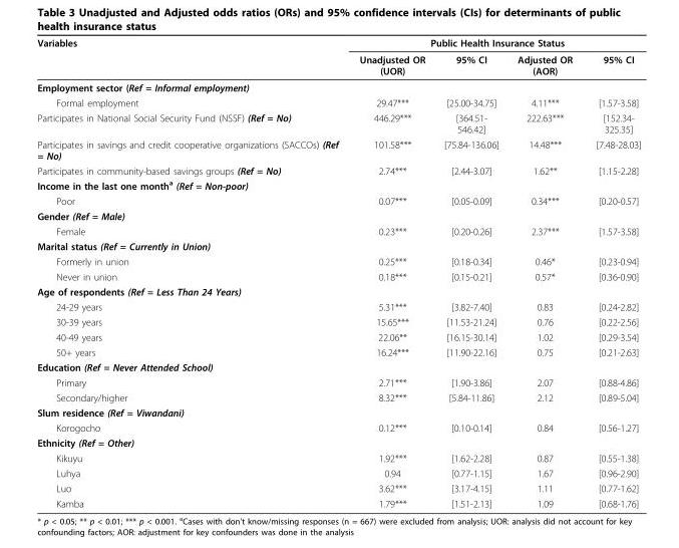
<table><thead><tr><td rowspan="2">Variables</td><td colspan="4">Public Health Insurance Status</td></tr><tr><td>Unadjusted OR (UOR)</td><td>95% CI</td><td>Adjusted OR (AOR)</td><td>95% CI</td></tr></thead><tbody><tr><td colspan="5">Employment sector (Ref = Informal employment)</td></tr><tr><td>Formal employment</td><td>29.47***</td><td>[25.00-34.75]</td><td>4.11***</td><td>[1.57-3.58]</td></tr><tr><td>Participates in National Social Security Fund (NSSF) (Ref = No)</td><td>446.29***</td><td>[364.51- 546.42]</td><td>222.63***</td><td>[152.34- 325.35]</td></tr><tr><td>Participates in savings and credit cooperative organizations (SACCOs) (Ref = No)</td><td>101.58***</td><td>[75.84-136.06]</td><td>14.48***</td><td>[7.48-28.03]</td></tr><tr><td>Participates in community-based savings groups (Ref = No)</td><td>2.74***</td><td>[2.44-3.07]</td><td>1.62**</td><td>[1.15-2.28]</td></tr><tr><td colspan="5">Income in the last one month<sup>a</sup> (Ref = Non-poor)</td></tr><tr><td>Poor</td><td>0.07***</td><td>[0.05-0.09]</td><td>0.34***</td><td>[0.20-0.57]</td></tr><tr><td colspan="5">Gender (Ref = Male)</td></tr><tr><td>Female</td><td>0.23***</td><td>[0.20-0.26]</td><td>2.37***</td><td>[1.57-3.58]</td></tr><tr><td colspan="5">Marital status (Ref = Currently in Union)</td></tr><tr><td>Formerly in union</td><td>0.25***</td><td>[0.18-0.34]</td><td>0.46*</td><td>[0.23-0.94]</td></tr><tr><td>Never in union</td><td>0.18***</td><td>[0.15-0.21]</td><td>0.57*</td><td>[0.36-0.90]</td></tr><tr><td colspan="5">Age of respondents (Ref = Less Than 24 Years)</td></tr><tr><td>24-29 years</td><td>5.31***</td><td>[3.82-7.40]</td><td>0.83</td><td>[0.24-2.82]</td></tr><tr><td>30-39 years</td><td>15.65***</td><td>[11.53-21.24]</td><td>0.76</td><td>[0.22-2.56]</td></tr><tr><td>40-49 years</td><td>22.06**</td><td>[16.15-30.14]</td><td>1.02</td><td>[0.29-3.54]</td></tr><tr><td>50+ years</td><td>16.24***</td><td>[11.90-22.16]</td><td>0.75</td><td>[0.21-2.63]</td></tr><tr><td colspan="5">Education (Ref = Never Attended School)</td></tr><tr><td>Primary</td><td>2.71***</td><td>[1.90-3.86]</td><td>2.07</td><td>[0.88-4.86]</td></tr><tr><td>Secondary/higher</td><td>8.32***</td><td>[5.84-11.86]</td><td>2.12</td><td>[0.89-5.04]</td></tr><tr><td colspan="5">Slum residence (Ref = Viwandani)</td></tr><tr><td>Korogocho</td><td>0.12***</td><td>[0.10-0.14]</td><td>0.84</td><td>[0.56-1.27]</td></tr><tr><td colspan="5">Ethnicity (Ref = Other)</td></tr><tr><td>Kikuyu</td><td>1.92***</td><td>[1.62-2.28]</td><td>0.87</td><td>[0.55-1.38]</td></tr><tr><td>Luhya</td><td>0.94</td><td>[0.77-1.15]</td><td>1.67</td><td>[0.96-2.90]</td></tr><tr><td>Luo</td><td>3.62***</td><td>[3.17-4.15]</td><td>1.11</td><td>[0.77-1.62]</td></tr><tr><td>Kamba</td><td>1.79***</td><td>[1.51-2.13]</td><td>1.09</td><td>[0.68-1.76]</td></tr></tbody></table>